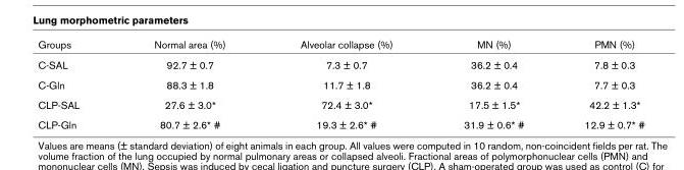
<table><thead><tr><td>Groups</td><td>Normal area (%)</td><td>Alveolar collapse (%)</td><td>MN (%)</td><td>PMN (%)</td></tr></thead><tbody><tr><td>C-SAL</td><td>92.7 ± 0.7</td><td>7.3 ± 0.7</td><td>36.2 ± 0.4</td><td>7.8 ± 0.3</td></tr><tr><td>C-Gln</td><td>88.3 ± 1.8</td><td>11.7 ± 1.8</td><td>36.2 ± 0.4</td><td>7.7 ± 0.3</td></tr><tr><td>CLP-SAL</td><td>27.6 ± 3.0*</td><td>72.4 ± 3.0*</td><td>17.5 ± 1.5*</td><td>42.2 ± 1.3*</td></tr><tr><td>CLP-Gln</td><td>80.7 ± 2.6* #</td><td>19.3 ± 2.6* #</td><td>31.9 ± 0.6* #</td><td>12.9 ± 0.7* #</td></tr></tbody></table>